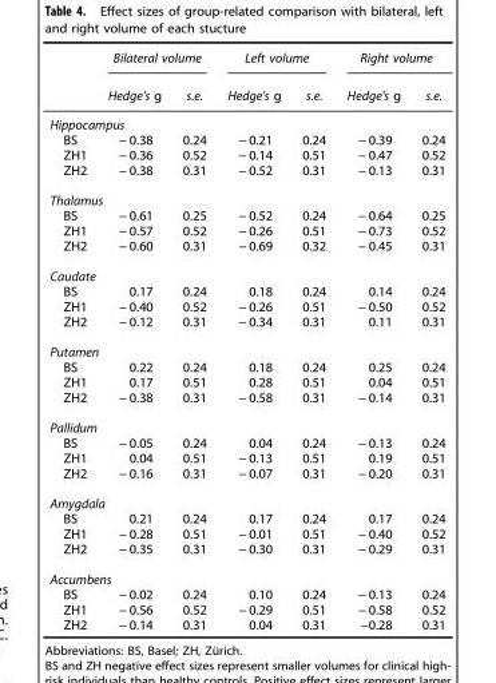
<table><thead><tr><td rowspan="2"></td><td colspan="2">Bilateral volume</td><td colspan="2">Left volume</td><td colspan="2">Right volume</td></tr><tr><td>Hedge&#x27;s g</td><td>s.e.</td><td>Hedge&#x27;s g</td><td>s.e.</td><td>Hedge&#x27;s g</td><td>s.e.</td></tr></thead><tbody><tr><td colspan="7">Hippocampus</td></tr><tr><td>BS</td><td>− 0.38</td><td>0.24</td><td>− 0.21</td><td>0.24</td><td>− 0.39</td><td>0.24</td></tr><tr><td>ZH1</td><td>− 0.36</td><td>0.52</td><td>− 0.14</td><td>0.51</td><td>− 0.47</td><td>0.52</td></tr><tr><td>ZH2</td><td>− 0.38</td><td>0.31</td><td>− 0.52</td><td>0.31</td><td>− 0.13</td><td>0.31</td></tr><tr><td colspan="7">Thalamus</td></tr><tr><td>BS</td><td>− 0.61</td><td>0.25</td><td>− 0.52</td><td>0.24</td><td>− 0.64</td><td>0.25</td></tr><tr><td>ZH1</td><td>− 0.57</td><td>0.52</td><td>− 0.26</td><td>0.51</td><td>− 0.73</td><td>0.52</td></tr><tr><td>ZH2</td><td>− 0.60</td><td>0.31</td><td>− 0.69</td><td>0.32</td><td>− 0.45</td><td>0.31</td></tr><tr><td colspan="7">Caudate</td></tr><tr><td>BS</td><td>0.17</td><td>0.24</td><td>0.18</td><td>0.24</td><td>0.14</td><td>0.24</td></tr><tr><td>ZH1</td><td>− 0.40</td><td>0.52</td><td>− 0.26</td><td>0.51</td><td>− 0.50</td><td>0.52</td></tr><tr><td>ZH2</td><td>− 0.12</td><td>0.31</td><td>− 0.34</td><td>0.31</td><td>0.11</td><td>0.31</td></tr><tr><td colspan="7">Putamen</td></tr><tr><td>BS</td><td>0.22</td><td>0.24</td><td>0.18</td><td>0.24</td><td>0.25</td><td>0.24</td></tr><tr><td>ZH1</td><td>0.17</td><td>0.51</td><td>0.28</td><td>0.51</td><td>0.04</td><td>0.51</td></tr><tr><td>ZH2</td><td>− 0.38</td><td>0.31</td><td>− 0.58</td><td>0.31</td><td>− 0.14</td><td>0.31</td></tr><tr><td colspan="7">Pallidum</td></tr><tr><td>BS</td><td>− 0.05</td><td>0.24</td><td>0.04</td><td>0.24</td><td>− 0.13</td><td>0.24</td></tr><tr><td>ZH1</td><td>0.04</td><td>0.51</td><td>− 0.13</td><td>0.51</td><td>0.19</td><td>0.51</td></tr><tr><td>ZH2</td><td>− 0.16</td><td>0.31</td><td>− 0.07</td><td>0.31</td><td>− 0.20</td><td>0.31</td></tr><tr><td colspan="7">Amygdala</td></tr><tr><td>BS</td><td>0.21</td><td>0.24</td><td>0.17</td><td>0.24</td><td>0.17</td><td>0.24</td></tr><tr><td>ZH1</td><td>− 0.28</td><td>0.51</td><td>− 0.01</td><td>0.51</td><td>− 0.40</td><td>0.52</td></tr><tr><td>ZH2</td><td>− 0.35</td><td>0.31</td><td>− 0.30</td><td>0.31</td><td>− 0.29</td><td>0.31</td></tr><tr><td colspan="7">Accumbens</td></tr><tr><td>BS</td><td>− 0.02</td><td>0.24</td><td>0.10</td><td>0.24</td><td>− 0.13</td><td>0.24</td></tr><tr><td>ZH1</td><td>− 0.56</td><td>0.52</td><td>− 0.29</td><td>0.51</td><td>− 0.58</td><td>0.52</td></tr><tr><td>ZH2</td><td>− 0.14</td><td>0.31</td><td>0.04</td><td>0.31</td><td>−0.28</td><td>0.31</td></tr></tbody></table>